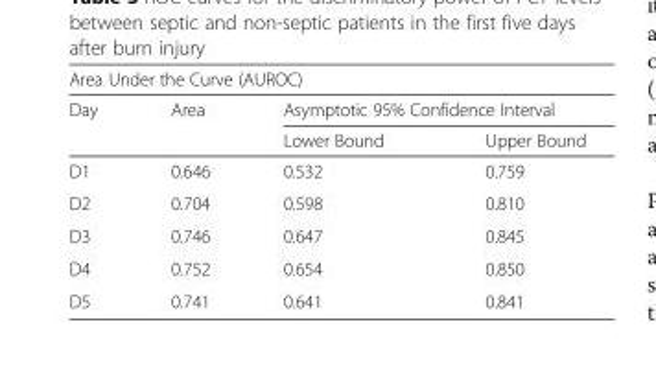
<table><thead><tr><td colspan="4">Area Under the Curve (AUROC)</td></tr><tr><td rowspan="2">Day</td><td rowspan="2">Area</td><td colspan="2">Asymptotic 95% Confidence Interval</td></tr><tr><td>Lower Bound</td><td>Upper Bound</td></tr></thead><tbody><tr><td>D1</td><td>0.646</td><td>0.532</td><td>0.759</td></tr><tr><td>D2</td><td>0.704</td><td>0.598</td><td>0.810</td></tr><tr><td>D3</td><td>0.746</td><td>0.647</td><td>0.845</td></tr><tr><td>D4</td><td>0.752</td><td>0.654</td><td>0.850</td></tr><tr><td>D5</td><td>0.741</td><td>0.641</td><td>0.841</td></tr></tbody></table>